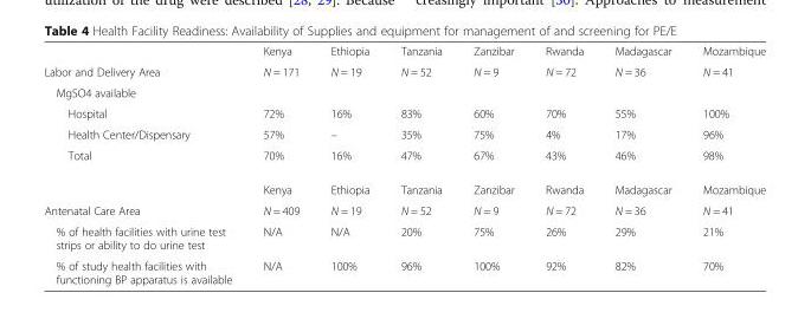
<table><thead><tr><td></td><td>Kenya</td><td>Ethiopia</td><td>Tanzania</td><td>Zanzibar</td><td>Rwanda</td><td>Madagascar</td><td>Mozambique</td></tr></thead><tbody><tr><td>Labor and Delivery Area</td><td>N = 171</td><td>N = 19</td><td>N = 52</td><td>N = 9</td><td>N = 72</td><td>N = 36</td><td>N = 41</td></tr><tr><td colspan="8">MgSO4 available</td></tr><tr><td>Hospital</td><td>72%</td><td>16%</td><td>83%</td><td>60%</td><td>70%</td><td>55%</td><td>100%</td></tr><tr><td>Health Center/Dispensary</td><td>57%</td><td>–</td><td>35%</td><td>75%</td><td>4%</td><td>17%</td><td>96%</td></tr><tr><td rowspan="2">Total</td><td>70%</td><td>16%</td><td>47%</td><td>67%</td><td>43%</td><td>46%</td><td>98%</td></tr><tr><td>Kenya</td><td>Ethiopia</td><td>Tanzania</td><td>Zanzibar</td><td>Rwanda</td><td>Madagascar</td><td>Mozambique</td></tr><tr><td>Antenatal Care Area</td><td>N = 409</td><td>N = 19</td><td>N = 52</td><td>N = 9</td><td>N = 72</td><td>N = 36</td><td>N = 41</td></tr><tr><td>% of health facilities with urine test strips or ability to do urine test</td><td>N/A</td><td>N/A</td><td>20%</td><td>75%</td><td>26%</td><td>29%</td><td>21%</td></tr><tr><td>% of study health facilities with functioning BP apparatus is available</td><td>N/A</td><td>100%</td><td>96%</td><td>100%</td><td>92%</td><td>82%</td><td>70%</td></tr></tbody></table>